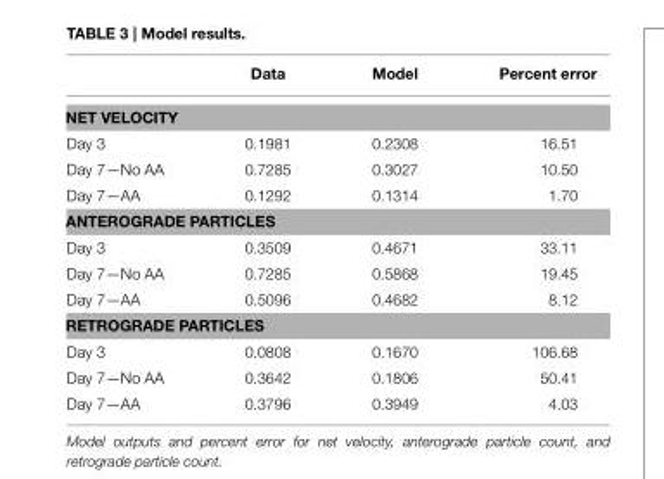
<table><thead><tr><td></td><td>Data</td><td>Model</td><td>Percent error</td></tr></thead><tbody><tr><td colspan="4">NET VELOCITY</td></tr><tr><td>Day 3</td><td>0.1981</td><td>0.2308</td><td>16.51</td></tr><tr><td>Day 7—No AA</td><td>0.7285</td><td>0.3027</td><td>10.50</td></tr><tr><td>Day 7—AA</td><td>0.1292</td><td>0.1314</td><td>1.70</td></tr><tr><td colspan="4">ANTEROGRADE PARTICLES</td></tr><tr><td>Day 3</td><td>0.3509</td><td>0.4671</td><td>33.11</td></tr><tr><td>Day 7—No AA</td><td>0.7285</td><td>0.5868</td><td>19.45</td></tr><tr><td>Day 7—AA</td><td>0.5096</td><td>0.4682</td><td>8.12</td></tr><tr><td colspan="4">RETROGRADE PARTICLES</td></tr><tr><td>Day 3</td><td>0.0808</td><td>0.1670</td><td>106.68</td></tr><tr><td>Day 7—No AA</td><td>0.3642</td><td>0.1806</td><td>50.41</td></tr><tr><td>Day 7—AA</td><td>0.3796</td><td>0.3949</td><td>4.03</td></tr></tbody></table>